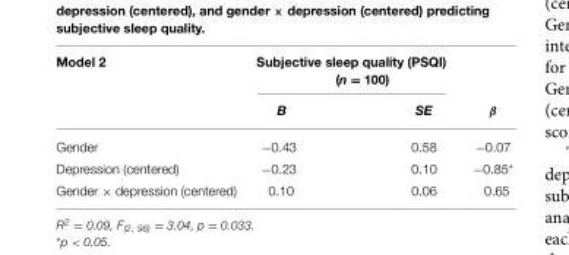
<table><thead><tr><td rowspan="2">Model 2</td><td colspan="3">Subjective sleep quality (PSQI) (n = 100)</td></tr><tr><td>B</td><td>SE</td><td>β</td></tr></thead><tbody><tr><td>Gender</td><td>−0.43</td><td>0.58</td><td>−0.07</td></tr><tr><td>Depression (centered)</td><td>−0.23</td><td>0.10</td><td>−0.85*</td></tr><tr><td>Gender × depression (centered)</td><td>0.10</td><td>0.06</td><td>0.65</td></tr></tbody></table>